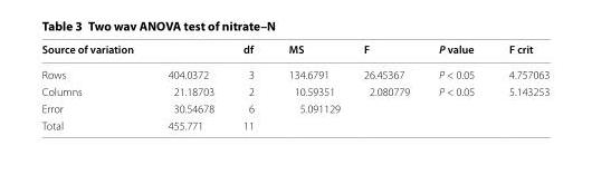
<table><thead><tr><td>Source of variation</td><td></td><td>df</td><td>MS</td><td>F</td><td>P value</td><td>F crit</td></tr></thead><tbody><tr><td>Rows</td><td>404.0372</td><td>3</td><td>134.6791</td><td>26.45367</td><td>P &lt; 0.05</td><td>4.757063</td></tr><tr><td>Columns</td><td>21.18703</td><td>2</td><td>10.59351</td><td>2.080779</td><td>P &lt; 0.05</td><td>5.143253</td></tr><tr><td>Error</td><td>30.54678</td><td>6</td><td>5.091129</td><td></td><td></td><td></td></tr><tr><td>Total</td><td>455.771</td><td>11</td><td></td><td></td><td></td><td></td></tr></tbody></table>